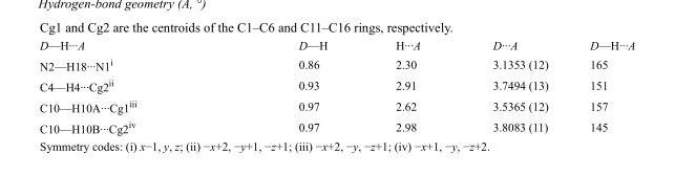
<table><tbody><tr><td>D—H···A</td><td>D—H</td><td>H···A</td><td>D···A</td><td>D—H···A</td></tr><tr><td>N2—H18···N1<sup>i</sup></td><td>0.86</td><td>2.30</td><td>3.1353 (12)</td><td>165</td></tr><tr><td>C4—H4···Cg2<sup>ii</sup></td><td>0.93</td><td>2.91</td><td>3.7494 (13)</td><td>151</td></tr><tr><td>C10—H10A···Cg1<sup>iii</sup></td><td>0.97</td><td>2.62</td><td>3.5365 (12)</td><td>157</td></tr><tr><td>C10—H10B···Cg2<sup>iv</sup></td><td>0.97</td><td>2.98</td><td>3.8083 (11)</td><td>145</td></tr></tbody></table>